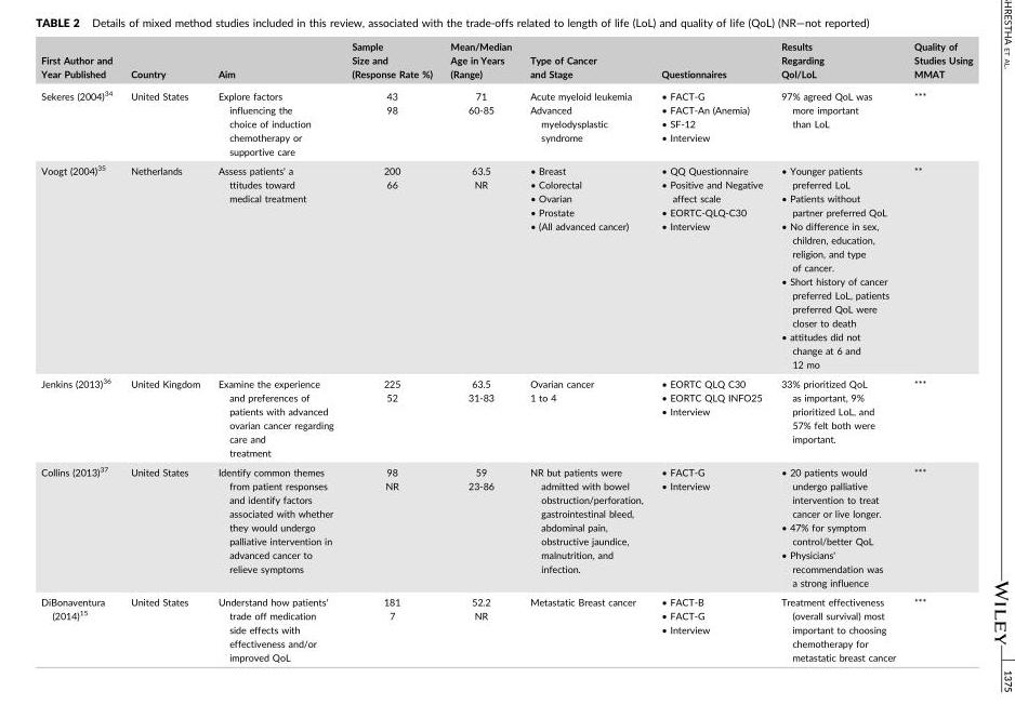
<table><thead><tr><td>First Author and Year Published</td><td>Country</td><td>Aim</td><td>Sample Size and (Response Rate %)</td><td>Mean/Median Age in Years (Range)</td><td>Type of Cancer and Stage</td><td>Questionnaires</td><td>Results Regarding Qol/LoL</td><td>Quality of Studies Using MMAT</td></tr></thead><tbody><tr><td>Sekeres (2004)<sup>34</sup></td><td>United States</td><td>Explore factors influencing the choice of induction chemotherapy or supportive care</td><td>43 98</td><td>71 60‐85</td><td>Acute myeloid leukemia Advanced myelodysplastic syndrome</td><td>• FACT‐G • FACT‐An (Anemia) • SF‐12 • Interview</td><td>97% agreed QoL was more important than LoL</td><td>***</td></tr><tr><td>Voogt (2004)<sup>35</sup></td><td>Netherlands</td><td>Assess patients&#x27; a ttitudes toward medical treatment</td><td>200 66</td><td>63.5 NR</td><td>• Breast • Colorectal • Ovarian • Prostate • (All advanced cancer)</td><td>• QQ Questionnaire • Positive and Negative affect scale • EORTC‐QLQ‐C30 • Interview</td><td>• Younger patients preferred LoL • Patients without partner preferred QoL • No difference in sex, children, education, religion, and type of cancer. • Short history of cancer preferred LoL, patients preferred QoL were closer to death • attitudes did not change at 6 and 12 mo</td><td>**</td></tr><tr><td>Jenkins (2013)<sup>36</sup></td><td>United Kingdom</td><td>Examine the experience and preferences of patients with advanced ovarian cancer regarding care and treatment</td><td>225 52</td><td>63.5 31‐83</td><td>Ovarian cancer 1 to 4</td><td>• EORTC QLQ C30 • EORTC QLQ INFO25 • Interview</td><td>33% prioritized QoL as important, 9% prioritized LoL, and 57% felt both were important.</td><td>***</td></tr><tr><td>Collins (2013)<sup>37</sup></td><td>United States</td><td>Identify common themes from patient responses and identify factors associated with whether they would undergo palliative intervention in advanced cancer to relieve symptoms</td><td>98 NR</td><td>59 23‐86</td><td>NR but patients were admitted with bowel obstruction/perforation, gastrointestinal bleed, abdominal pain, obstructive jaundice, malnutrition, and infection.</td><td>• FACT‐G • Interview</td><td>• 20 patients would undergo palliative intervention to treat cancer or live longer. • 47% for symptom control/better QoL • Physicians&#x27; recommendation was a strong influence</td><td>***</td></tr><tr><td>DiBonaventura (2014)<sup>15</sup></td><td>United States</td><td>Understand how patients&#x27; trade off medication side effects with effectiveness and/or improved QoL</td><td>181 7</td><td>52.2 NR</td><td>Metastatic Breast cancer</td><td>• FACT‐B • FACT‐G • Interview</td><td>Treatment effectiveness (overall survival) most important to choosing chemotherapy for metastatic breast cancer</td><td>***</td></tr></tbody></table>